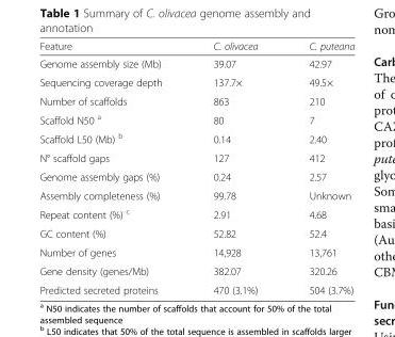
<table><thead><tr><td>Feature</td><td>C. olivacea</td><td>C. puteana</td></tr></thead><tbody><tr><td>Genome assembly size (Mb)</td><td>39.07</td><td>42.97</td></tr><tr><td>Sequencing coverage depth</td><td>137.7×</td><td>49.5×</td></tr><tr><td>Number of scaffolds</td><td>863</td><td>210</td></tr><tr><td>Scaffold N50 <sup>a</sup></td><td>80</td><td>7</td></tr><tr><td>Scaffold L50 (Mb) <sup>b</sup></td><td>0.14</td><td>2.40</td></tr><tr><td>N° scaffold gaps</td><td>127</td><td>412</td></tr><tr><td>Genome assembly gaps (%)</td><td>0.24</td><td>2.57</td></tr><tr><td>Assembly completeness (%)</td><td>99.78</td><td>Unknown</td></tr><tr><td>Repeat content (%) <sup>c</sup></td><td>2.91</td><td>4.68</td></tr><tr><td>GC content (%)</td><td>52.82</td><td>52.4</td></tr><tr><td>Number of genes</td><td>14,928</td><td>13,761</td></tr><tr><td>Gene density (genes/Mb)</td><td>382.07</td><td>320.26</td></tr><tr><td>Predicted secreted proteins</td><td>470 (3.1%)</td><td>504 (3.7%)</td></tr></tbody></table>